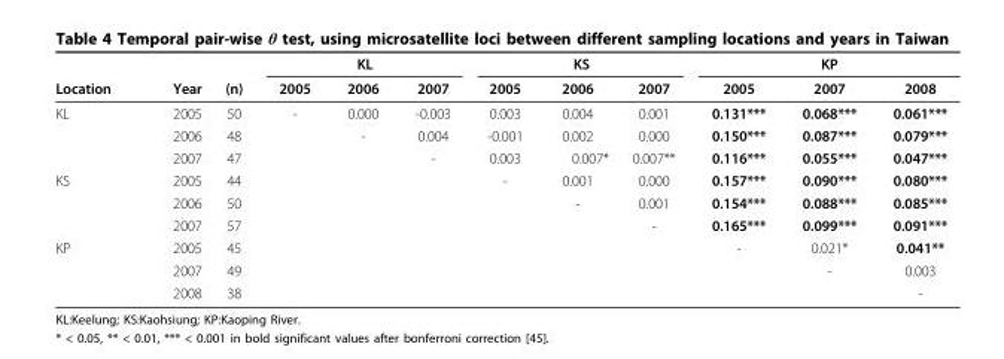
<table><thead><tr><td rowspan="2">Location</td><td rowspan="2">Year</td><td rowspan="2">(n)</td><td colspan="3">KL</td><td colspan="3">KS</td><td colspan="3">KP</td></tr><tr><td>2005</td><td>2006</td><td>2007</td><td>2005</td><td>2006</td><td>2007</td><td>2005</td><td>2007</td><td>2008</td></tr></thead><tbody><tr><td rowspan="3">KL</td><td>2005</td><td>50</td><td>-</td><td>0.000</td><td>-0.003</td><td>0.003</td><td>0.004</td><td>0.001</td><td>0.131***</td><td>0.068***</td><td>0.061***</td></tr><tr><td>2006</td><td>48</td><td></td><td>-</td><td>0.004</td><td>-0.001</td><td>0.002</td><td>0.000</td><td>0.150***</td><td>0.087***</td><td>0.079***</td></tr><tr><td>2007</td><td>47</td><td></td><td></td><td>-</td><td>0.003</td><td>0.007*</td><td>0.007**</td><td>0.116***</td><td>0.055***</td><td>0.047***</td></tr><tr><td rowspan="3">KS</td><td>2005</td><td>44</td><td></td><td></td><td></td><td>-</td><td>0.001</td><td>0.000</td><td>0.157***</td><td>0.090***</td><td>0.080***</td></tr><tr><td>2006</td><td>50</td><td></td><td></td><td></td><td></td><td>-</td><td>0.001</td><td>0.154***</td><td>0.088***</td><td>0.085***</td></tr><tr><td>2007</td><td>57</td><td></td><td></td><td></td><td></td><td></td><td>-</td><td>0.165***</td><td>0.099***</td><td>0.091***</td></tr><tr><td rowspan="3">KP</td><td>2005</td><td>45</td><td></td><td></td><td></td><td></td><td></td><td></td><td>-</td><td>0.021*</td><td>0.041**</td></tr><tr><td>2007</td><td>49</td><td></td><td></td><td></td><td></td><td></td><td></td><td></td><td>-</td><td>0.003</td></tr><tr><td>2008</td><td>38</td><td></td><td></td><td></td><td></td><td></td><td></td><td></td><td></td><td>-</td></tr></tbody></table>